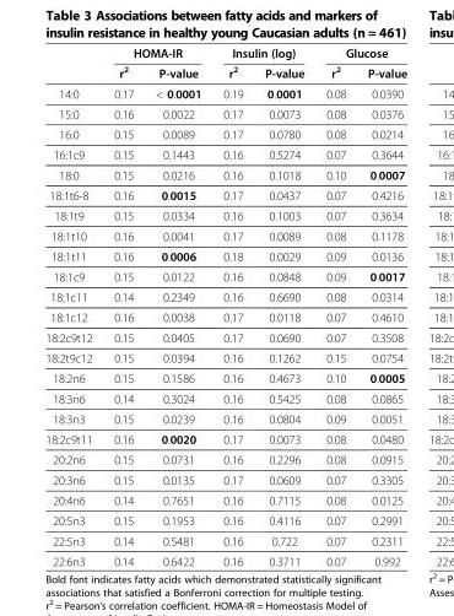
<table><thead><tr><td rowspan="2"></td><td colspan="2">HOMA-IR</td><td colspan="2">Insulin (log)</td><td colspan="2">Glucose</td></tr><tr><td>r<sup>2</sup></td><td>P-value</td><td>r<sup>2</sup></td><td>P-value</td><td>r<sup>2</sup></td><td>P-value</td></tr></thead><tbody><tr><td>14:0</td><td>0.17</td><td>&lt; 0.0001</td><td>0.19</td><td>0.0001</td><td>0.08</td><td>0.0390</td></tr><tr><td>15:0</td><td>0.16</td><td>0.0022</td><td>0.17</td><td>0.0073</td><td>0.08</td><td>0.0376</td></tr><tr><td>16:0</td><td>0.15</td><td>0.0089</td><td>0.17</td><td>0.0780</td><td>0.08</td><td>0.0214</td></tr><tr><td>16:1c9</td><td>0.15</td><td>0.1443</td><td>0.16</td><td>0.5274</td><td>0.07</td><td>0.3644</td></tr><tr><td>18:0</td><td>0.15</td><td>0.0216</td><td>0.16</td><td>0.1018</td><td>0.10</td><td>0.0007</td></tr><tr><td>18:1t6-8</td><td>0.16</td><td>0.0015</td><td>0.17</td><td>0.0437</td><td>0.07</td><td>0.4216</td></tr><tr><td>18:1t9</td><td>0.15</td><td>0.0334</td><td>0.16</td><td>0.1003</td><td>0.07</td><td>0.3634</td></tr><tr><td>18:1t10</td><td>0.16</td><td>0.0041</td><td>0.17</td><td>0.0089</td><td>0.08</td><td>0.1178</td></tr><tr><td>18:1t11</td><td>0.16</td><td>0.0006</td><td>0.18</td><td>0.0029</td><td>0.09</td><td>0.0136</td></tr><tr><td>18:1c9</td><td>0.15</td><td>0.0122</td><td>0.16</td><td>0.0848</td><td>0.09</td><td>0.0017</td></tr><tr><td>18:1c11</td><td>0.14</td><td>0.2349</td><td>0.16</td><td>0.6690</td><td>0.08</td><td>0.0314</td></tr><tr><td>18:1c12</td><td>0.16</td><td>0.0038</td><td>0.17</td><td>0.0118</td><td>0.07</td><td>0.4610</td></tr><tr><td>18:2c9t12</td><td>0.15</td><td>0.0405</td><td>0.17</td><td>0.0690</td><td>0.07</td><td>0.3508</td></tr><tr><td>18:2t9c12</td><td>0.15</td><td>0.0394</td><td>0.16</td><td>0.1262</td><td>0.15</td><td>0.0754</td></tr><tr><td>18:2n6</td><td>0.15</td><td>0.1586</td><td>0.16</td><td>0.4673</td><td>0.10</td><td>0.0005</td></tr><tr><td>18:3n6</td><td>0.14</td><td>0.3024</td><td>0.16</td><td>0.5425</td><td>0.08</td><td>0.0865</td></tr><tr><td>18:3n3</td><td>0.15</td><td>0.0239</td><td>0.16</td><td>0.0804</td><td>0.09</td><td>0.0051</td></tr><tr><td>18:2c9t11</td><td>0.16</td><td>0.0020</td><td>0.17</td><td>0.0073</td><td>0.08</td><td>0.0480</td></tr><tr><td>20:2n6</td><td>0.15</td><td>0.0731</td><td>0.16</td><td>0.2296</td><td>0.08</td><td>0.0915</td></tr><tr><td>20:3n6</td><td>0.15</td><td>0.0135</td><td>0.17</td><td>0.0609</td><td>0.07</td><td>0.3305</td></tr><tr><td>20:4n6</td><td>0.14</td><td>0.7651</td><td>0.16</td><td>0.7115</td><td>0.08</td><td>0.0125</td></tr><tr><td>20:5n3</td><td>0.15</td><td>0.1953</td><td>0.16</td><td>0.4116</td><td>0.07</td><td>0.2991</td></tr><tr><td>22:5n3</td><td>0.14</td><td>0.5481</td><td>0.16</td><td>0.722</td><td>0.07</td><td>0.2311</td></tr><tr><td>22:6n3</td><td>0.14</td><td>0.6422</td><td>0.16</td><td>0.3711</td><td>0.07</td><td>0.992</td></tr></tbody></table>